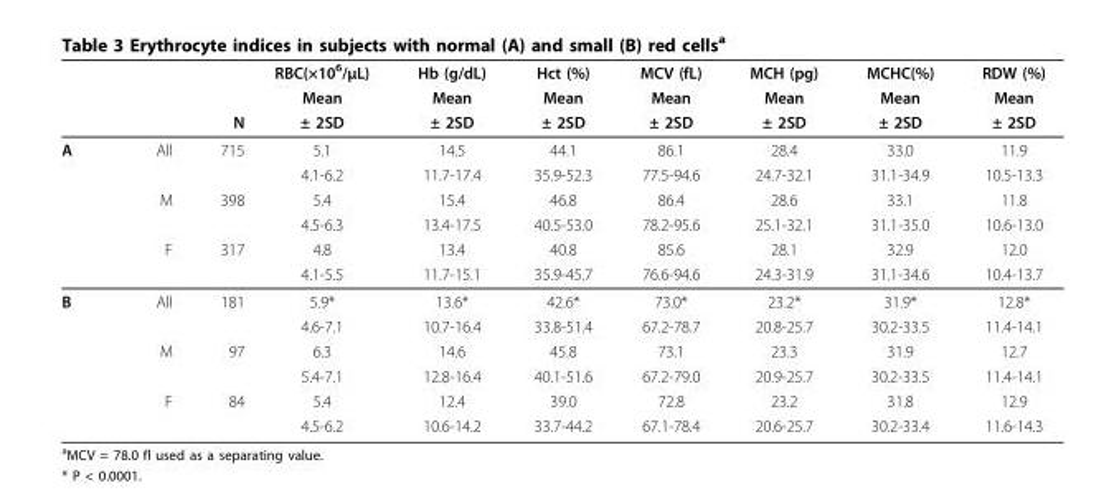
<table><thead><tr><td rowspan="3"></td><td rowspan="3"></td><td rowspan="3">N</td><td rowspan="3">RBC(×10<sup>6</sup>/μL) Mean ± 2SD</td><td rowspan="3">Hb (g/dL) Mean ± 2SD</td><td rowspan="3">Hct (%) Mean ± 2SD</td><td rowspan="3">MCV (fL) Mean ± 2SD</td><td rowspan="3">MCH (pg) Mean ± 2SD</td><td rowspan="3">MCHC(%) Mean ± 2SD</td><td rowspan="3">RDW (%) Mean ± 2SD</td></tr><tr></tr><tr></tr></thead><tbody><tr><td rowspan="6">A</td><td>All</td><td>715</td><td>5.1</td><td>14.5</td><td>44.1</td><td>86.1</td><td>28.4</td><td>33.0</td><td>11.9</td></tr><tr><td></td><td></td><td>4.1-6.2</td><td>11.7-17.4</td><td>35.9-52.3</td><td>77.5-94.6</td><td>24.7-32.1</td><td>31.1-34.9</td><td>10.5-13.3</td></tr><tr><td>M</td><td>398</td><td>5.4</td><td>15.4</td><td>46.8</td><td>86.4</td><td>28.6</td><td>33.1</td><td>11.8</td></tr><tr><td></td><td></td><td>4.5-6.3</td><td>13.4-17.5</td><td>40.5-53.0</td><td>78.2-95.6</td><td>25.1-32.1</td><td>31.1-35.0</td><td>10.6-13.0</td></tr><tr><td>F</td><td>317</td><td>4.8</td><td>13.4</td><td>40.8</td><td>85.6</td><td>28.1</td><td>32.9</td><td>12.0</td></tr><tr><td></td><td></td><td>4.1-5.5</td><td>11.7-15.1</td><td>35.9-45.7</td><td>76.6-94.6</td><td>24.3-31.9</td><td>31.1-34.6</td><td>10.4-13.7</td></tr><tr><td rowspan="6">B</td><td>All</td><td>181</td><td>5.9*</td><td>13.6*</td><td>42.6*</td><td>73.0*</td><td>23.2*</td><td>31.9*</td><td>12.8*</td></tr><tr><td></td><td></td><td>4.6-7.1</td><td>10.7-16.4</td><td>33.8-51.4</td><td>67.2-78.7</td><td>20.8-25.7</td><td>30.2-33.5</td><td>11.4-14.1</td></tr><tr><td>M</td><td>97</td><td>6.3</td><td>14.6</td><td>45.8</td><td>73.1</td><td>23.3</td><td>31.9</td><td>12.7</td></tr><tr><td></td><td></td><td>5.4-7.1</td><td>12.8-16.4</td><td>40.1-51.6</td><td>67.2-79.0</td><td>20.9-25.7</td><td>30.2-33.5</td><td>11.4-14.1</td></tr><tr><td>F</td><td>84</td><td>5.4</td><td>12.4</td><td>39.0</td><td>72.8</td><td>23.2</td><td>31.8</td><td>12.9</td></tr><tr><td></td><td></td><td>4.5-6.2</td><td>10.6-14.2</td><td>33.7-44.2</td><td>67.1-78.4</td><td>20.6-25.7</td><td>30.2-33.4</td><td>11.6-14.3</td></tr></tbody></table>